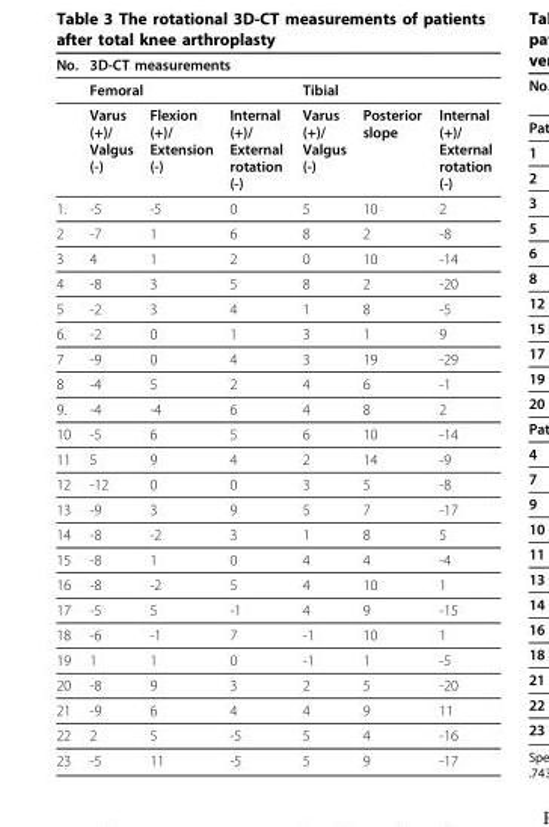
<table><thead><tr><td rowspan="3">No.</td><td colspan="6">3D-CT measurements</td></tr><tr><td colspan="3">Femoral</td><td colspan="3">Tibial</td></tr><tr><td>Varus (+)/ Valgus (-)</td><td>Flexion (+)/ Extension (-)</td><td>Internal (+)/ External rotation (-)</td><td>Varus (+)/ Valgus (-)</td><td>Posterior slope</td><td>Internal (+)/ External rotation (-)</td></tr></thead><tbody><tr><td>1.</td><td>-5</td><td>-5</td><td>0</td><td>5</td><td>10</td><td>2</td></tr><tr><td>2</td><td>-7</td><td>1</td><td>6</td><td>8</td><td>2</td><td>-8</td></tr><tr><td>3</td><td>4</td><td>1</td><td>2</td><td>0</td><td>10</td><td>-14</td></tr><tr><td>4</td><td>-8</td><td>3</td><td>5</td><td>8</td><td>2</td><td>-20</td></tr><tr><td>5</td><td>-2</td><td>3</td><td>4</td><td>1</td><td>8</td><td>-5</td></tr><tr><td>6.</td><td>-2</td><td>0</td><td>1</td><td>3</td><td>1</td><td>9</td></tr><tr><td>7</td><td>-9</td><td>0</td><td>4</td><td>3</td><td>19</td><td>-29</td></tr><tr><td>8</td><td>-4</td><td>5</td><td>2</td><td>4</td><td>6</td><td>-1</td></tr><tr><td>9.</td><td>-4</td><td>-4</td><td>6</td><td>4</td><td>8</td><td>2</td></tr><tr><td>10</td><td>-5</td><td>6</td><td>5</td><td>6</td><td>10</td><td>-14</td></tr><tr><td>11</td><td>5</td><td>9</td><td>4</td><td>2</td><td>14</td><td>-9</td></tr><tr><td>12</td><td>-12</td><td>0</td><td>0</td><td>3</td><td>5</td><td>-8</td></tr><tr><td>13</td><td>-9</td><td>3</td><td>9</td><td>5</td><td>7</td><td>-17</td></tr><tr><td>14</td><td>-8</td><td>-2</td><td>3</td><td>1</td><td>8</td><td>5</td></tr><tr><td>15</td><td>-8</td><td>1</td><td>0</td><td>4</td><td>4</td><td>-4</td></tr><tr><td>16</td><td>-8</td><td>-2</td><td>5</td><td>4</td><td>10</td><td>1</td></tr><tr><td>17</td><td>-5</td><td>5</td><td>-1</td><td>4</td><td>9</td><td>-15</td></tr><tr><td>18</td><td>-6</td><td>-1</td><td>7</td><td>-1</td><td>10</td><td>1</td></tr><tr><td>19</td><td>1</td><td>1</td><td>0</td><td>-1</td><td>1</td><td>-5</td></tr><tr><td>20</td><td>-8</td><td>9</td><td>3</td><td>2</td><td>5</td><td>-20</td></tr><tr><td>21</td><td>-9</td><td>6</td><td>4</td><td>4</td><td>9</td><td>11</td></tr><tr><td>22</td><td>2</td><td>5</td><td>-5</td><td>5</td><td>4</td><td>-16</td></tr><tr><td>23</td><td>-5</td><td>11</td><td>-5</td><td>5</td><td>9</td><td>-17</td></tr></tbody></table>